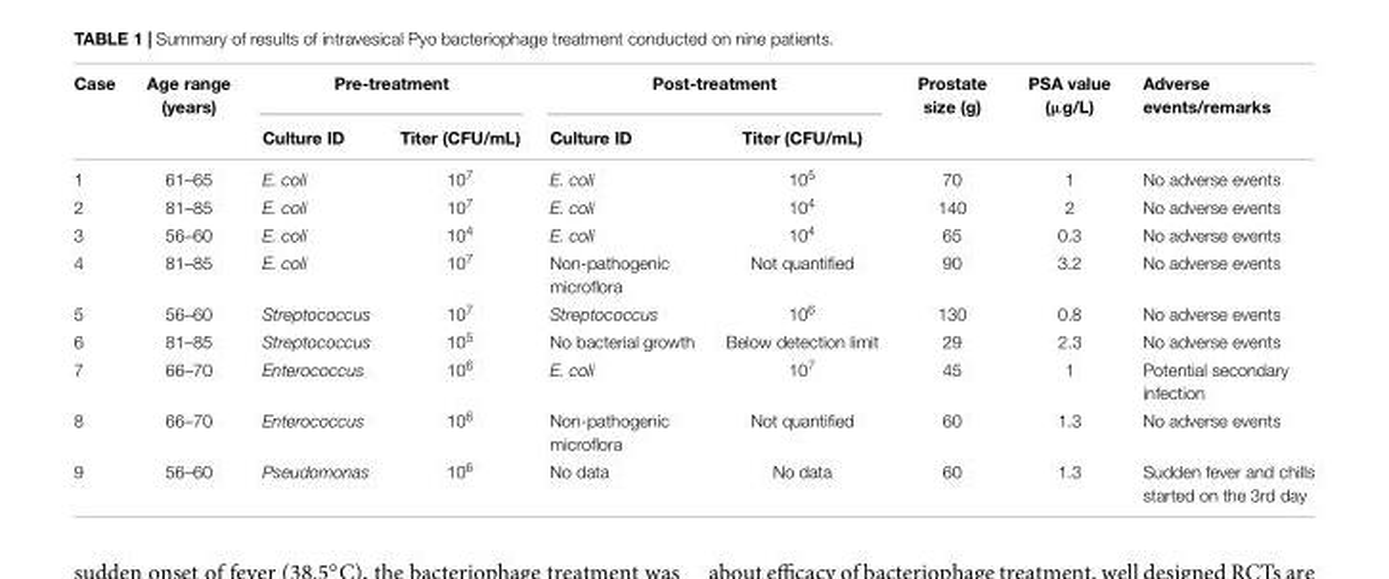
<table><thead><tr><td rowspan="2">Case</td><td rowspan="2">Age range (years)</td><td colspan="2">Pre-treatment</td><td colspan="2">Post-treatment</td><td rowspan="2">Prostate size (g)</td><td rowspan="2">PSA value (µg/L)</td><td rowspan="2">Adverse events/remarks</td></tr><tr><td>Culture ID</td><td>Titer (CFU/mL)</td><td>Culture ID</td><td>Titer (CFU/mL)</td></tr></thead><tbody><tr><td>1</td><td>61–65</td><td>E. coli</td><td>10<sup>7</sup></td><td>E. coli</td><td>10<sup>5</sup></td><td>70</td><td>1</td><td>No adverse events</td></tr><tr><td>2</td><td>81–85</td><td>E. coli</td><td>10<sup>7</sup></td><td>E. coli</td><td>10<sup>4</sup></td><td>140</td><td>2</td><td>No adverse events</td></tr><tr><td>3</td><td>56–60</td><td>E. coli</td><td>10<sup>4</sup></td><td>E. coli</td><td>10<sup>4</sup></td><td>65</td><td>0.3</td><td>No adverse events</td></tr><tr><td>4</td><td>81–85</td><td>E. coli</td><td>10<sup>7</sup></td><td>Non-pathogenic microflora</td><td>Not quantified</td><td>90</td><td>3.2</td><td>No adverse events</td></tr><tr><td>5</td><td>56–60</td><td>Streptococcus</td><td>10<sup>7</sup></td><td>Streptococcus</td><td>10<sup>6</sup></td><td>130</td><td>0.8</td><td>No adverse events</td></tr><tr><td>6</td><td>81–85</td><td>Streptococcus</td><td>10<sup>5</sup></td><td>No bacterial growth</td><td>Below detection limit</td><td>29</td><td>2.3</td><td>No adverse events</td></tr><tr><td>7</td><td>66–70</td><td>Enterococcus</td><td>10<sup>6</sup></td><td>E. coli</td><td>10<sup>7</sup></td><td>45</td><td>1</td><td>Potential secondary infection</td></tr><tr><td>8</td><td>66–70</td><td>Enterococcus</td><td>10<sup>6</sup></td><td>Non-pathogenic microflora</td><td>Not quantified</td><td>60</td><td>1.3</td><td>No adverse events</td></tr><tr><td>9</td><td>56–60</td><td>Pseudomonas</td><td>10<sup>6</sup></td><td>No data</td><td>No data</td><td>60</td><td>1.3</td><td>Sudden fever and chills started on the 3rd day</td></tr></tbody></table>